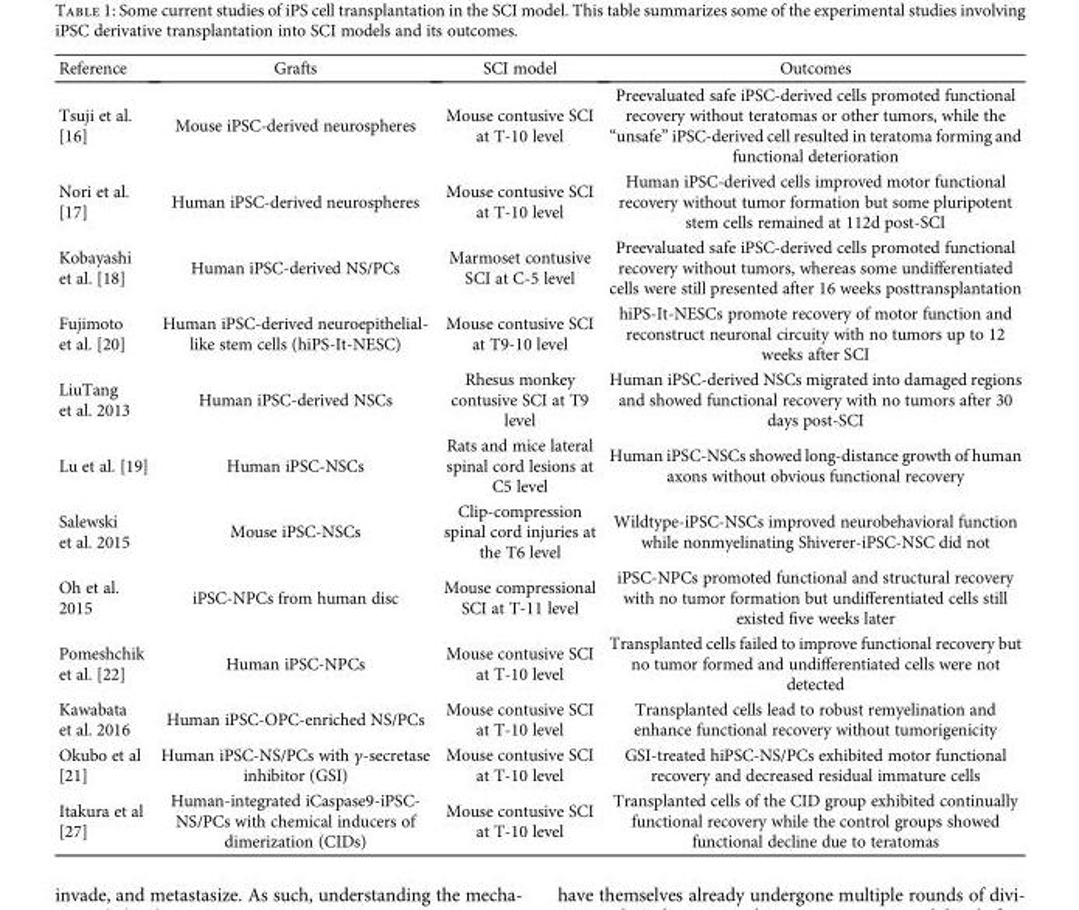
<table><thead><tr><td>Reference</td><td>Grafts</td><td>SCI model</td><td>Outcomes</td></tr></thead><tbody><tr><td>Tsuji et al. [16]</td><td>Mouse iPSC-derived neurospheres</td><td>Mouse contusive SCI at T-10 level</td><td>Preevaluated safe iPSC-derived cells promoted functional recovery without teratomas or other tumors, while the “unsafe” iPSC-derived cell resulted in teratoma forming and functional deterioration</td></tr><tr><td>Nori et al. [17]</td><td>Human iPSC-derived neurospheres</td><td>Mouse contusive SCI at T-10 level</td><td>Human iPSC-derived cells improved motor functional recovery without tumor formation but some pluripotent stem cells remained at 112d post-SCI</td></tr><tr><td>Kobayashi et al. [18]</td><td>Human iPSC-derived NS/PCs</td><td>Marmoset contusive SCI at C-5 level</td><td>Preevaluated safe iPSC-derived cells promoted functional recovery without tumors, whereas some undifferentiated cells were still presented after 16 weeks posttransplantation</td></tr><tr><td>Fujimoto et al. [20]</td><td>Human iPSC-derived neuroepithelial- like stem cells (hiPS-It-NESC)</td><td>Mouse contusive SCI at T9-10 level</td><td>hiPS-It-NESCs promote recovery of motor function and reconstruct neuronal circuity with no tumors up to 12 weeks after SCI</td></tr><tr><td>LiuTang et al. 2013</td><td>Human iPSC-derived NSCs</td><td>Rhesus monkey contusive SCI at T9 level</td><td>Human iPSC-derived NSCs migrated into damaged regions and showed functional recovery with no tumors after 30 days post-SCI</td></tr><tr><td>Lu et al. [19]</td><td>Human iPSC-NSCs</td><td>Rats and mice lateral spinal cord lesions at C5 level</td><td>Human iPSC-NSCs showed long-distance growth of human axons without obvious functional recovery</td></tr><tr><td>Salewski et al. 2015</td><td>Mouse iPSC-NSCs</td><td>Clip-compression spinal cord injuries at the T6 level</td><td>Wildtype-iPSC-NSCs improved neurobehavioral function while nonmyelinating Shiverer-iPSC-NSC did not</td></tr><tr><td>Oh et al. 2015</td><td>iPSC-NPCs from human disc</td><td>Mouse compressional SCI at T-11 level</td><td>iPSC-NPCs promoted functional and structural recovery with no tumor formation but undifferentiated cells still existed five weeks later</td></tr><tr><td>Pomeshchik et al. [22]</td><td>Human iPSC-NPCs</td><td>Mouse contusive SCI at T-10 level</td><td>Transplanted cells failed to improve functional recovery but no tumor formed and undifferentiated cells were not detected</td></tr><tr><td>Kawabata et al. 2016</td><td>Human iPSC-OPC-enriched NS/PCs</td><td>Mouse contusive SCI at T-10 level</td><td>Transplanted cells lead to robust remyelination and enhance functional recovery without tumorigenicity</td></tr><tr><td>Okubo et al [21]</td><td>Human iPSC-NS/PCs with γ-secretase inhibitor (GSI)</td><td>Mouse contusive SCI at T-10 level</td><td>GSI-treated hiPSC-NS/PCs exhibited motor functional recovery and decreased residual immature cells</td></tr><tr><td>Itakura et al [27]</td><td>Human-integrated iCaspase9-iPSC- NS/PCs with chemical inducers of dimerization (CIDs)</td><td>Mouse contusive SCI at T-10 level</td><td>Transplanted cells of the CID group exhibited continually functional recovery while the control groups showed functional decline due to teratomas</td></tr></tbody></table>